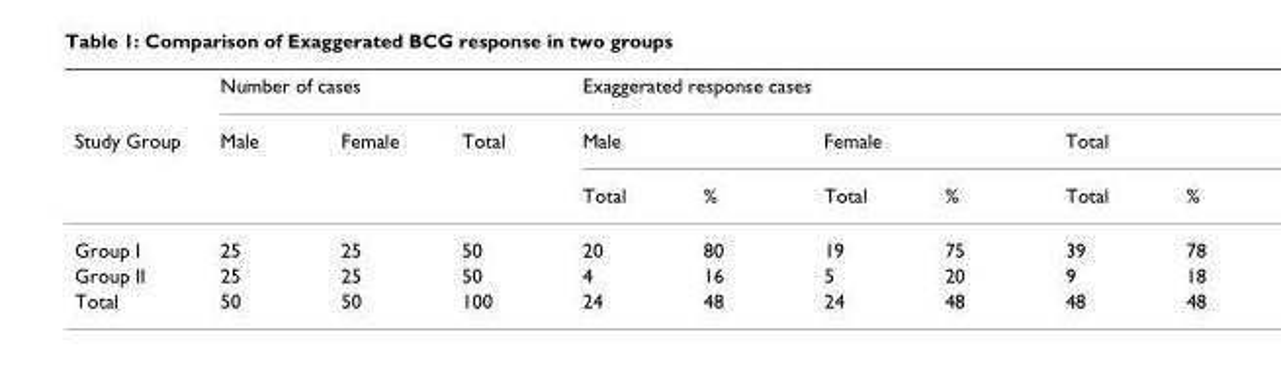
<table><thead><tr><td rowspan="3">Study Group</td><td colspan="3">Number of cases</td><td colspan="6">Exaggerated response cases</td></tr><tr><td rowspan="2">Male</td><td rowspan="2">Female</td><td rowspan="2">Total</td><td colspan="2">Male</td><td colspan="2">Female</td><td colspan="2">Total</td></tr><tr><td>Total</td><td>%</td><td>Total</td><td>%</td><td>Total</td><td>%</td></tr></thead><tbody><tr><td>Group I</td><td>25</td><td>25</td><td>50</td><td>20</td><td>80</td><td>19</td><td>75</td><td>39</td><td>78</td></tr><tr><td>Group II</td><td>25</td><td>25</td><td>50</td><td>4</td><td>16</td><td>5</td><td>20</td><td>9</td><td>18</td></tr><tr><td>Total</td><td>50</td><td>50</td><td>100</td><td>24</td><td>48</td><td>24</td><td>48</td><td>48</td><td>48</td></tr></tbody></table>